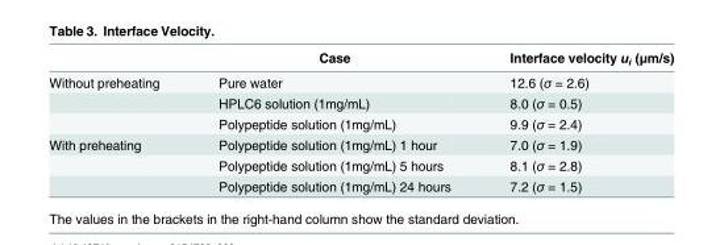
<table><thead><tr><td></td><td>Case</td><td>Interface velocity u<sub>i</sub> (μm/s)</td></tr></thead><tbody><tr><td rowspan="3">Without preheating</td><td>Pure water</td><td>12.6 (σ = 2.6)</td></tr><tr><td>HPLC6 solution (1mg/mL)</td><td>8.0 (σ = 0.5)</td></tr><tr><td>Polypeptide solution (1mg/mL)</td><td>9.9 (σ = 2.4)</td></tr><tr><td rowspan="3">With preheating</td><td>Polypeptide solution (1mg/mL) 1 hour</td><td>7.0 (σ = 1.9)</td></tr><tr><td>Polypeptide solution (1mg/mL) 5 hours</td><td>8.1 (σ = 2.8)</td></tr><tr><td>Polypeptide solution (1mg/mL) 24 hours</td><td>7.2 (σ = 1.5)</td></tr></tbody></table>